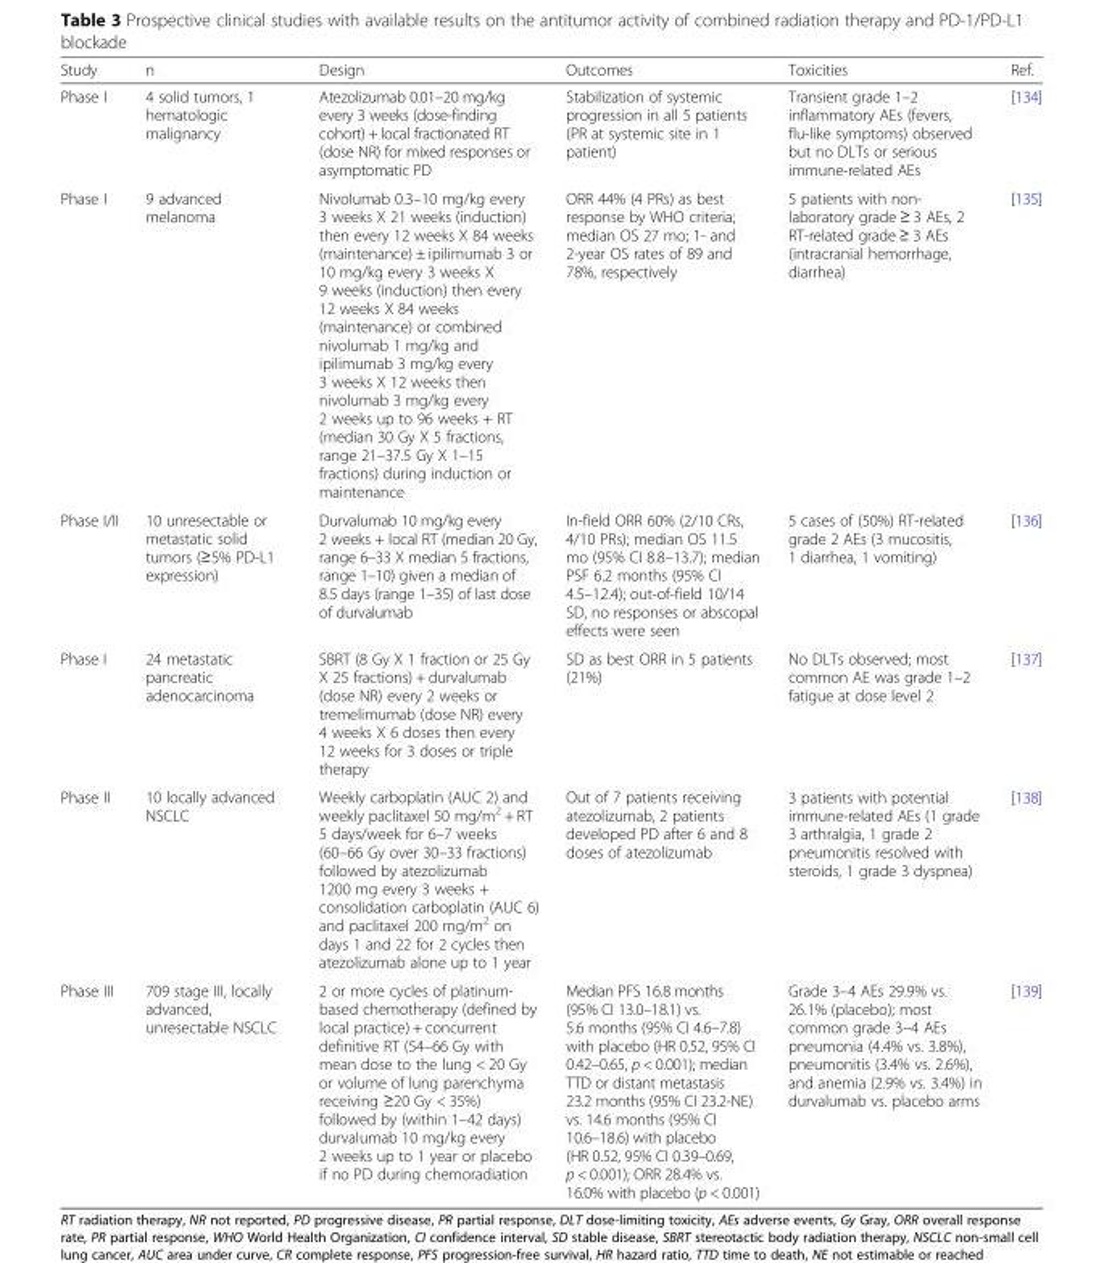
<table><thead><tr><td>Study</td><td>n</td><td>Design</td><td>Outcomes</td><td>Toxicities</td><td>Ref.</td></tr></thead><tbody><tr><td>Phase I</td><td>4 solid tumors, 1 hematologic malignancy</td><td>Atezolizumab 0.01–20 mg/kg every 3 weeks (dose-finding cohort) + local fractionated RT (dose NR) for mixed responses or asymptomatic PD</td><td>Stabilization of systemic progression in all 5 patients (PR at systemic site in 1 patient)</td><td>Transient grade 1–2 inflammatory AEs (fevers, flu-like symptoms) observed but no DLTs or serious immune-related AEs</td><td>[134]</td></tr><tr><td>Phase I</td><td>9 advanced melanoma</td><td>Nivolumab 0.3–10 mg/kg every 3 weeks X 21 weeks (induction) then every 12 weeks X 84 weeks (maintenance) ± ipilimumab 3 or 10 mg/kg every 3 weeks X 9 weeks (induction) then every 12 weeks X 84 weeks (maintenance) or combined nivolumab 1 mg/kg and ipilimumab 3 mg/kg every 3 weeks X 12 weeks then nivolumab 3 mg/kg every 2 weeks up to 96 weeks + RT (median 30 Gy X 5 fractions, range 21–37.5 Gy X 1–15 fractions) during induction or maintenance</td><td>ORR 44% (4 PRs) as best response by WHO criteria; median OS 27 mo; 1- and 2-year OS rates of 89 and 78%, respectively</td><td>5 patients with non- laboratory grade ≥ 3 AEs, 2 RT-related grade ≥ 3 AEs (intracranial hemorrhage, diarrhea)</td><td>[135]</td></tr><tr><td>Phase I/II</td><td>10 unresectable or metastatic solid tumors (≥5% PD-L1 expression)</td><td>Durvalumab 10 mg/kg every 2 weeks + local RT (median 20 Gy, range 6–33 X median 5 fractions, range 1–10) given a median of 8.5 days (range 1–35) of last dose of durvalumab</td><td>In-field ORR 60% (2/10 CRs, 4/10 PRs); median OS 11.5 mo (95% CI 8.8–13.7); median PSF 6.2 months (95% CI 4.5–12.4); out-of-field 10/14 SD, no responses or abscopal effects were seen</td><td>5 cases of (50%) RT-related grade 2 AEs (3 mucositis, 1 diarrhea, 1 vomiting)</td><td>[136]</td></tr><tr><td>Phase I</td><td>24 metastatic pancreatic adenocarcinoma</td><td>SBRT (8 Gy X 1 fraction or 25 Gy X 25 fractions) + durvalumab (dose NR) every 2 weeks or tremelimumab (dose NR) every 4 weeks X 6 doses then every 12 weeks for 3 doses or triple therapy</td><td>SD as best ORR in 5 patients (21%)</td><td>No DLTs observed; most common AE was grade 1–2 fatigue at dose level 2</td><td>[137]</td></tr><tr><td>Phase II</td><td>10 locally advanced NSCLC</td><td>Weekly carboplatin (AUC 2) and weekly paclitaxel 50 mg/m<sup>2</sup> + RT 5 days/week for 6–7 weeks (60–66 Gy over 30–33 fractions) followed by atezolizumab 1200 mg every 3 weeks + consolidation carboplatin (AUC 6) and paclitaxel 200 mg/m<sup>2</sup> on days 1 and 22 for 2 cycles then atezolizumab alone up to 1 year</td><td>Out of 7 patients receiving atezolizumab, 2 patients developed PD after 6 and 8 doses of atezolizumab</td><td>3 patients with potential immune-related AEs (1 grade 3 arthralgia, 1 grade 2 pneumonitis resolved with steroids, 1 grade 3 dyspnea)</td><td>[138]</td></tr><tr><td>Phase III</td><td>709 stage III, locally advanced, unresectable NSCLC</td><td>2 or more cycles of platinum- based chemotherapy (defined by local practice) + concurrent definitive RT (54–66 Gy with mean dose to the lung &lt; 20 Gy or volume of lung parenchyma receiving ≥20 Gy &lt; 35%) followed by (within 1–42 days) durvalumab 10 mg/kg every 2 weeks up to 1 year or placebo if no PD during chemoradiation</td><td>Median PFS 16.8 months (95% CI 13.0–18.1) vs. 5.6 months (95% CI 4.6–7.8) with placebo (HR 0.52, 95% CI 0.42–0.65, p &lt; 0.001); median TTD or distant metastasis 23.2 months (95% CI 23.2-NE) vs. 14.6 months (95% CI 10.6–18.6) with placebo (HR 0.52, 95% CI 0.39–0.69, p &lt; 0.001); ORR 28.4% vs. 16.0% with placebo (p &lt; 0.001)</td><td>Grade 3–4 AEs 29.9% vs. 26.1% (placebo); most common grade 3–4 AEs pneumonia (4.4% vs. 3.8%), pneumonitis (3.4% vs. 2.6%), and anemia (2.9% vs. 3.4%) in durvalumab vs. placebo arms</td><td>[139]</td></tr></tbody></table>